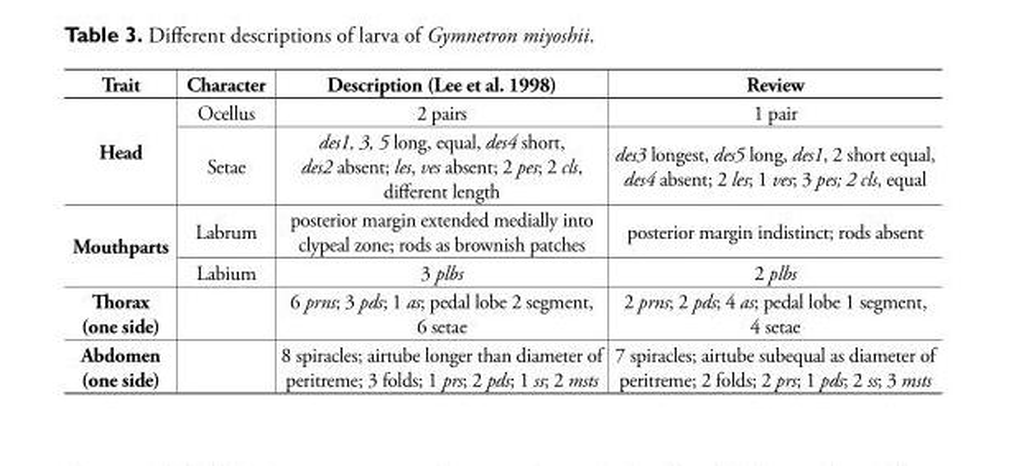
<table><thead><tr><td>Trait</td><td>Character</td><td>Description (Lee et al. 1998)</td><td>Review</td></tr></thead><tbody><tr><td rowspan="2">Head</td><td>Ocellus</td><td>2 pairs</td><td>1 pair</td></tr><tr><td>Setae</td><td>des1, 3, 5 long, equal, des4 short, des2 absent; les, ves absent; 2 pes; 2 cls, different length</td><td>des3 longest, des5 long, des1, 2 short equal, des4 absent; 2 les; 1 ves; 3 pes; 2 cls, equal</td></tr><tr><td rowspan="2">Mouthparts</td><td>Labrum</td><td>posterior margin extended medially into clypeal zone; rods as brownish patches</td><td>posterior margin indistinct; rods absent</td></tr><tr><td>Labium</td><td>3 plbs</td><td>2 plbs</td></tr><tr><td>Thorax (one side)</td><td></td><td>6 prns; 3 pds; 1 as; pedal lobe 2 segment, 6 setae</td><td>2 prns; 2 pds; 4 as; pedal lobe 1 segment, 4 setae</td></tr><tr><td>Abdomen (one side)</td><td></td><td>8 spiracles; airtube longer than diameter of peritreme; 3 folds; 1 prs; 2 pds; 1 ss; 2 msts</td><td>7 spiracles; airtube subequal as diameter of peritreme; 2 folds; 2 prs; 1 pds; 2 ss; 3 msts</td></tr></tbody></table>